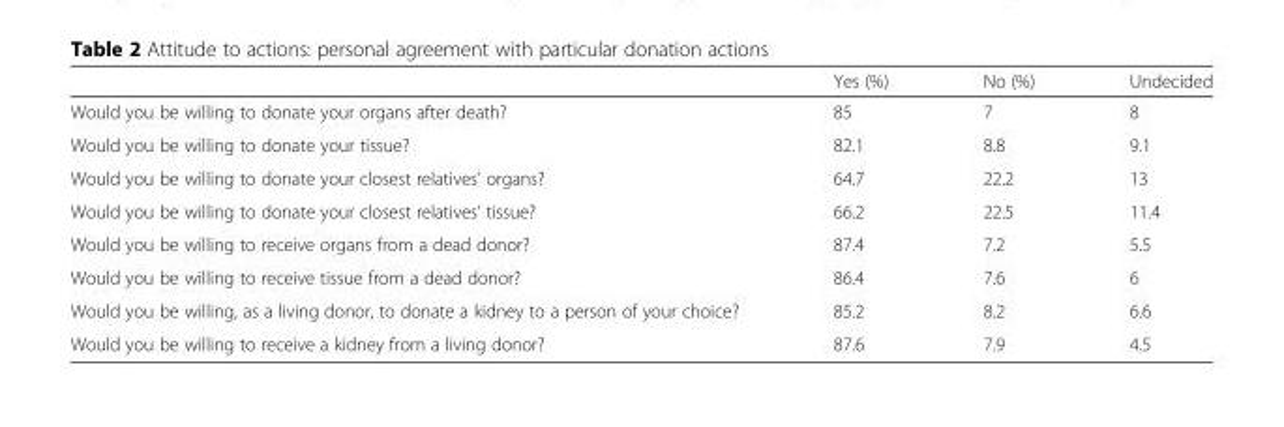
<table><thead><tr><td></td><td>Yes (%)</td><td>No (%)</td><td>Undecided</td></tr></thead><tbody><tr><td>Would you be willing to donate your organs after death?</td><td>85</td><td>7</td><td>8</td></tr><tr><td>Would you be willing to donate your tissue?</td><td>82.1</td><td>8.8</td><td>9.1</td></tr><tr><td>Would you be willing to donate your closest relatives’ organs?</td><td>64.7</td><td>22.2</td><td>13</td></tr><tr><td>Would you be willing to donate your closest relatives’ tissue?</td><td>66.2</td><td>22.5</td><td>11.4</td></tr><tr><td>Would you be willing to receive organs from a dead donor?</td><td>87.4</td><td>7.2</td><td>5.5</td></tr><tr><td>Would you be willing to receive tissue from a dead donor?</td><td>86.4</td><td>7.6</td><td>6</td></tr><tr><td>Would you be willing, as a living donor, to donate a kidney to a person of your choice?</td><td>85.2</td><td>8.2</td><td>6.6</td></tr><tr><td>Would you be willing to receive a kidney from a living donor?</td><td>87.6</td><td>7.9</td><td>4.5</td></tr></tbody></table>